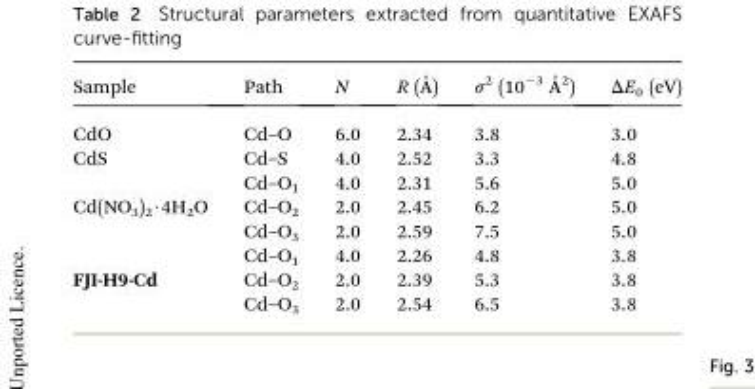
<table><thead><tr><td>Sample</td><td>Path</td><td>N</td><td>R (˚A)</td><td>s2 (10�3 ˚A2)</td><td>ΔE<sub>0</sub> (eV)</td></tr></thead><tbody><tr><td>CdO</td><td>Cd–O</td><td>6.0</td><td>2.34</td><td>3.8</td><td>3.0</td></tr><tr><td rowspan="2">CdS</td><td>Cd–S</td><td>4.0</td><td>2.52</td><td>3.3</td><td>4.8</td></tr><tr><td>Cd–O<sub>1</sub></td><td>4.0</td><td>2.31</td><td>5.6</td><td>5.0</td></tr><tr><td rowspan="3">Cd(NO<sub>3</sub>)<sub>2</sub>·4H<sub>2</sub>O</td><td>Cd–O<sub>2</sub></td><td>2.0</td><td>2.45</td><td>6.2</td><td>5.0</td></tr><tr><td>Cd–O<sub>3</sub></td><td>2.0</td><td>2.59</td><td>7.5</td><td>5.0</td></tr><tr><td>Cd–O<sub>1</sub></td><td>4.0</td><td>2.26</td><td>4.8</td><td>3.8</td></tr><tr><td rowspan="2">FJI-H9-Cd</td><td>Cd–O<sub>2</sub></td><td>2.0</td><td>2.39</td><td>5.3</td><td>3.8</td></tr><tr><td>Cd–O<sub>3</sub></td><td>2.0</td><td>2.54</td><td>6.5</td><td>3.8</td></tr></tbody></table>